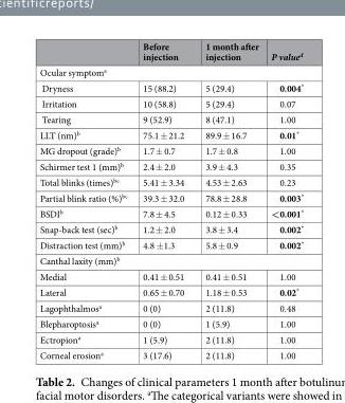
<table><thead><tr><td></td><td>Before injection</td><td>1 month after injection</td><td>P value<sup>d</sup></td></tr></thead><tbody><tr><td colspan="4">Ocular symptom<sup>a</sup></td></tr><tr><td>Dryness</td><td>15 (88.2)</td><td>5 (29.4)</td><td>0.004*</td></tr><tr><td>Irritation</td><td>10 (58.8)</td><td>5 (29.4)</td><td>0.07</td></tr><tr><td>Tearing</td><td>9 (52.9)</td><td>8 (47.1)</td><td>1.00</td></tr><tr><td>LLT (nm)<sup>b</sup></td><td>75.1 ± 21.2</td><td>89.9 ± 16.7</td><td>0.01*</td></tr><tr><td>MG dropout (grade)<sup>b</sup></td><td>1.7 ± 0.7</td><td>1.7 ± 0.8</td><td>1.00</td></tr><tr><td>Schirmer test 1 (mm)<sup>b</sup></td><td>2.4 ± 2.0</td><td>3.9 ± 4.3</td><td>0.35</td></tr><tr><td>Total blinks (times)<sup>bc</sup></td><td>5.41 ± 3.34</td><td>4.53 ± 2.63</td><td>0.23</td></tr><tr><td>Partial blink ratio (%)<sup>bc</sup></td><td>39.3 ± 32.0</td><td>78.8 ± 28.8</td><td>0.003*</td></tr><tr><td>BSDI<sup>b</sup></td><td>7.8 ± 4.5</td><td>0.12 ± 0.33</td><td>&lt;0.001*</td></tr><tr><td>Snap-back test (sec)<sup>b</sup></td><td>1.2 ± 2.0</td><td>3.8 ± 3.4</td><td>0.002*</td></tr><tr><td>Distraction test (mm)<sup>b</sup></td><td>4.8 ±1.3</td><td>5.8 ± 0.9</td><td>0.002*</td></tr><tr><td colspan="4">Canthal laxity (mm)<sup>b</sup></td></tr><tr><td>Medial</td><td>0.41 ± 0.51</td><td>0.41 ± 0.51</td><td>1.00</td></tr><tr><td>Lateral</td><td>0.65 ± 0.70</td><td>1.18 ± 0.53</td><td>0.02*</td></tr><tr><td>Lagophthalmos<sup>a</sup></td><td>0 (0)</td><td>2 (11.8)</td><td>0.48</td></tr><tr><td>Blepharoptosis<sup>a</sup></td><td>0 (0)</td><td>1 (5.9)</td><td>1.00</td></tr><tr><td>Ectropion<sup>a</sup></td><td>1 (5.9)</td><td>2 (11.8)</td><td>1.00</td></tr><tr><td>Corneal erosion<sup>a</sup></td><td>3 (17.6)</td><td>2 (11.8)</td><td>1.00</td></tr></tbody></table>